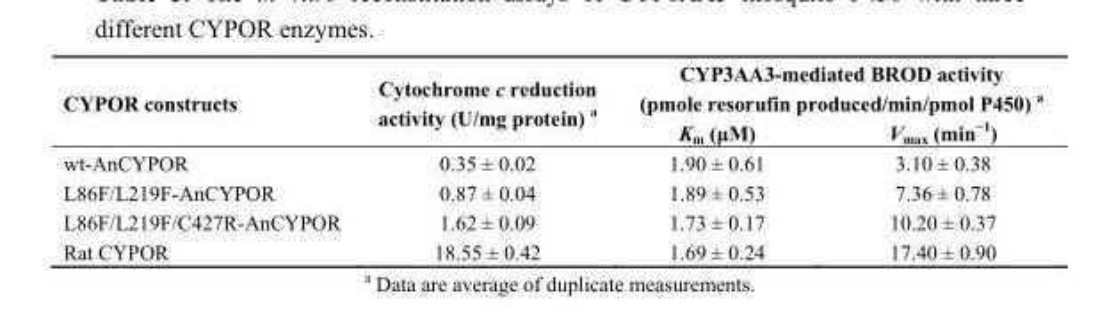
<table><thead><tr><td rowspan="2">CYPOR constructs</td><td rowspan="2">Cytochrome c reduction activity (U/mg protein) a</td><td colspan="2">CYP3AA3-mediated BROD activity (pmole resorufin produced/min/pmol P450) a</td></tr><tr><td>K<sub>m</sub> (μM)</td><td>V<sub>max</sub> (min<sup>−1</sup>)</td></tr></thead><tbody><tr><td>wt-AnCYPOR</td><td>0.35 ± 0.02</td><td>1.90 ± 0.61</td><td>3.10 ± 0.38</td></tr><tr><td>L86F/L219F-AnCYPOR</td><td>0.87 ± 0.04</td><td>1.89 ± 0.53</td><td>7.36 ± 0.78</td></tr><tr><td>L86F/L219F/C427R-AnCYPOR</td><td>1.62 ± 0.09</td><td>1.73 ± 0.17</td><td>10.20 ± 0.37</td></tr><tr><td>Rat CYPOR</td><td>18.55 ± 0.42</td><td>1.69 ± 0.24</td><td>17.40 ± 0.90</td></tr></tbody></table>